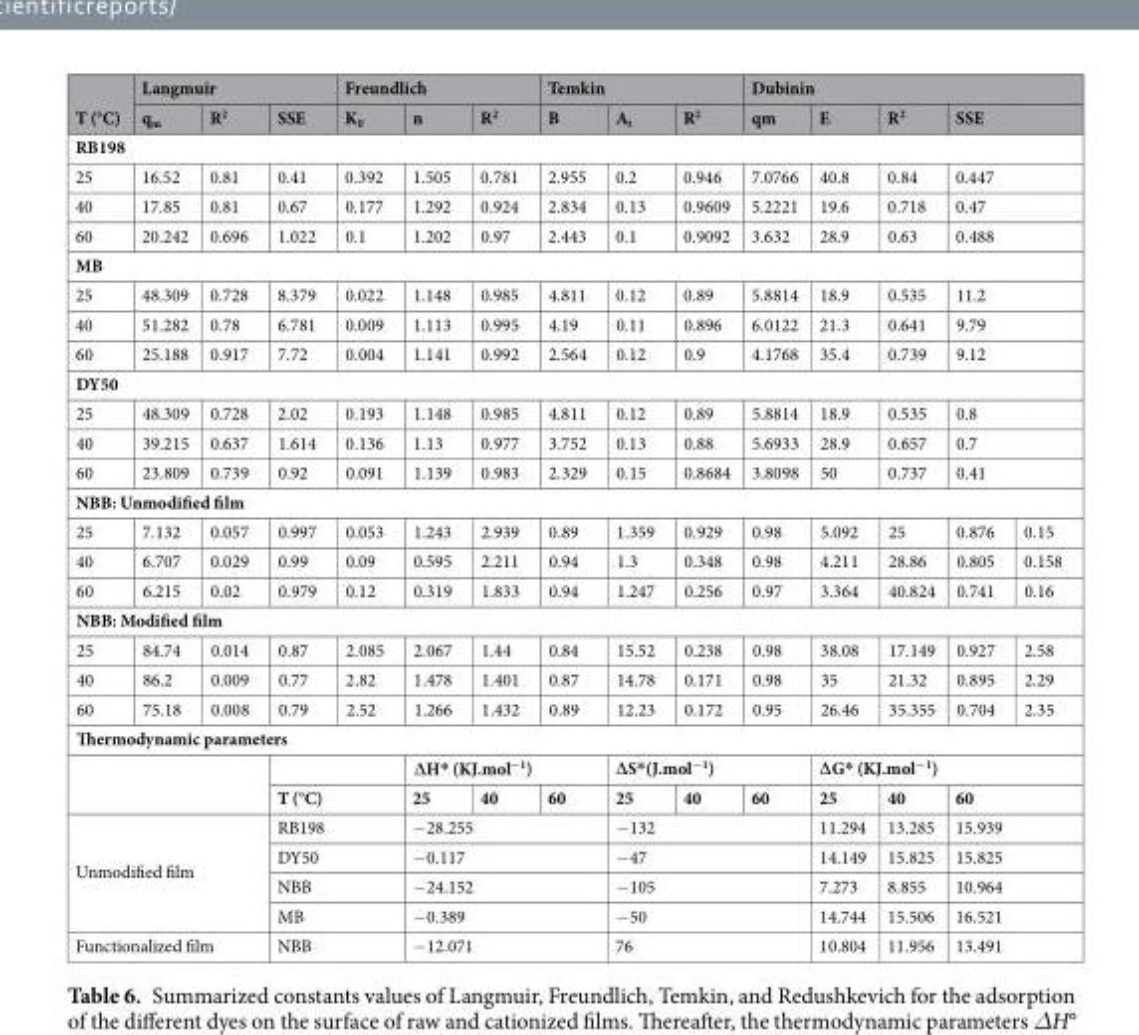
<table><thead><tr><td rowspan="2">T (°C)</td><td colspan="3">Langmuir</td><td colspan="3">Freundlich</td><td colspan="3">Temkin</td><td colspan="5">Dubinin</td></tr><tr><td>q<sub>m</sub></td><td>R<sup>2</sup></td><td>SSE</td><td>K<sub>F</sub></td><td>n</td><td>R<sup>2</sup></td><td>B</td><td>A<sub>t</sub></td><td>R<sup>2</sup></td><td>qm</td><td>E</td><td>R<sup>2</sup></td><td colspan="2">SSE</td></tr></thead><tbody><tr><td colspan="15">RB198</td></tr><tr><td>25</td><td>16.52</td><td>0.81</td><td>0.41</td><td>0.392</td><td>1.505</td><td>0.781</td><td>2.955</td><td>0.2</td><td>0.946</td><td>7.0766</td><td>40.8</td><td>0.84</td><td colspan="2">0.447</td></tr><tr><td>40</td><td>17.85</td><td>0.81</td><td>0.67</td><td>0.177</td><td>1.292</td><td>0.924</td><td>2.834</td><td>0.13</td><td>0.9609</td><td>5.2221</td><td>19.6</td><td>0.718</td><td colspan="2">0.47</td></tr><tr><td>60</td><td>20.242</td><td>0.696</td><td>1.022</td><td>0.1</td><td>1.202</td><td>0.97</td><td>2.443</td><td>0.1</td><td>0.9092</td><td>3.632</td><td>28.9</td><td>0.63</td><td colspan="2">0.488</td></tr><tr><td colspan="15">MB</td></tr><tr><td>25</td><td>48.309</td><td>0.728</td><td>8.379</td><td>0.022</td><td>1.148</td><td>0.985</td><td>4.811</td><td>0.12</td><td>0.89</td><td>5.8814</td><td>18.9</td><td>0.535</td><td colspan="2">11.2</td></tr><tr><td>40</td><td>51.282</td><td>0.78</td><td>6.781</td><td>0.009</td><td>1.113</td><td>0.995</td><td>4.19</td><td>0.11</td><td>0.896</td><td>6.0122</td><td>21.3</td><td>0.641</td><td colspan="2">9.79</td></tr><tr><td>60</td><td>25.188</td><td>0.917</td><td>7.72</td><td>0.004</td><td>1.141</td><td>0.992</td><td>2.564</td><td>0.12</td><td>0.9</td><td>4.1768</td><td>35.4</td><td>0.739</td><td colspan="2">9.12</td></tr><tr><td colspan="15">DY50</td></tr><tr><td>25</td><td>48.309</td><td>0.728</td><td>2.02</td><td>0.193</td><td>1.148</td><td>0.985</td><td>4.811</td><td>0.12</td><td>0.89</td><td>5.8814</td><td>18.9</td><td>0.535</td><td colspan="2">0.8</td></tr><tr><td>40</td><td>39.215</td><td>0.637</td><td>1.614</td><td>0.136</td><td>1.13</td><td>0.977</td><td>3.752</td><td>0.13</td><td>0.88</td><td>5.6933</td><td>28.9</td><td>0.657</td><td colspan="2">0.7</td></tr><tr><td>60</td><td>23.809</td><td>0.739</td><td>0.92</td><td>0.091</td><td>1.139</td><td>0.983</td><td>2.329</td><td>0.15</td><td>0.8684</td><td>3.8098</td><td>50</td><td>0.737</td><td colspan="2">0.41</td></tr><tr><td colspan="15">NBB: Unmodified film</td></tr><tr><td>25</td><td>7.132</td><td>0.057</td><td>0.997</td><td>0.053</td><td>1.243</td><td>2.939</td><td>0.89</td><td>1.359</td><td>0.929</td><td>0.98</td><td>5.092</td><td>25</td><td>0.876</td><td>0.15</td></tr><tr><td>40</td><td>6.707</td><td>0.029</td><td>0.99</td><td>0.09</td><td>0.595</td><td>2.211</td><td>0.94</td><td>1.3</td><td>0.348</td><td>0.98</td><td>4.211</td><td>28.86</td><td>0.805</td><td>0.158</td></tr><tr><td>60</td><td>6.215</td><td>0.02</td><td>0.979</td><td>0.12</td><td>0.319</td><td>1.833</td><td>0.94</td><td>1.247</td><td>0.256</td><td>0.97</td><td>3.364</td><td>40.824</td><td>0.741</td><td>0.16</td></tr><tr><td colspan="15">NBB: Modified film</td></tr><tr><td>25</td><td>84.74</td><td>0.014</td><td>0.87</td><td>2.085</td><td>2.067</td><td>1.44</td><td>0.84</td><td>15.52</td><td>0.238</td><td>0.98</td><td>38.08</td><td>17.149</td><td>0.927</td><td>2.58</td></tr><tr><td>40</td><td>86.2</td><td>0.009</td><td>0.77</td><td>2.82</td><td>1.478</td><td>1.401</td><td>0.87</td><td>14.78</td><td>0.171</td><td>0.98</td><td>35</td><td>21.32</td><td>0.895</td><td>2.29</td></tr><tr><td>60</td><td>75.18</td><td>0.008</td><td>0.79</td><td>2.52</td><td>1.266</td><td>1.432</td><td>0.89</td><td>12.23</td><td>0.172</td><td>0.95</td><td>26.46</td><td>35.355</td><td>0.704</td><td>2.35</td></tr><tr><td colspan="15">Thermodynamic parameters</td></tr><tr><td rowspan="2" colspan="3"></td><td colspan="2"></td><td colspan="3">∆H* (KJ.mol<sup>−1</sup>)</td><td colspan="3">∆S*(J.mol<sup>−1</sup>)</td><td colspan="4">∆G* (KJ.mol<sup>−1</sup>)</td></tr><tr><td colspan="2">T (°C)</td><td>25</td><td>40</td><td>60</td><td>25</td><td>40</td><td>60</td><td>25</td><td>40</td><td colspan="2">60</td></tr><tr><td rowspan="4" colspan="3">Unmodified film</td><td colspan="2">RB198</td><td colspan="3">−28.255</td><td colspan="3">−132</td><td>11.294</td><td>13.285</td><td colspan="2">15.939</td></tr><tr><td colspan="2">DY50</td><td colspan="3">−0.117</td><td colspan="3">−47</td><td>14.149</td><td>15.825</td><td colspan="2">15.825</td></tr><tr><td colspan="2">NBB</td><td colspan="3">−24.152</td><td colspan="3">−105</td><td>7.273</td><td>8.855</td><td colspan="2">10.964</td></tr><tr><td colspan="2">MB</td><td colspan="3">−0.389</td><td colspan="3">−50</td><td>14.744</td><td>15.506</td><td colspan="2">16.521</td></tr><tr><td colspan="3">Functionalized film</td><td colspan="2">NBB</td><td colspan="3">−12.071</td><td colspan="3">76</td><td>10.804</td><td>11.956</td><td colspan="2">13.491</td></tr></tbody></table>